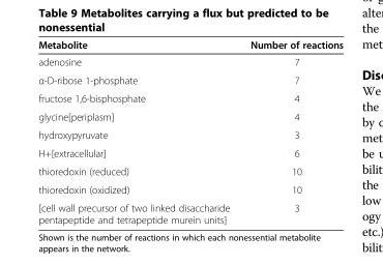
<table><thead><tr><td>Metabolite</td><td>Number of reactions</td></tr></thead><tbody><tr><td>adenosine</td><td>7</td></tr><tr><td>α-D-ribose 1-phosphate</td><td>7</td></tr><tr><td>fructose 1,6-bisphosphate</td><td>4</td></tr><tr><td>glycine[periplasm]</td><td>4</td></tr><tr><td>hydroxypyruvate</td><td>3</td></tr><tr><td>H+[extracellular]</td><td>6</td></tr><tr><td>thioredoxin (reduced)</td><td>10</td></tr><tr><td>thioredoxin (oxidized)</td><td>10</td></tr><tr><td>[cell wall precursor of two linked disaccharide pentapeptide and tetrapeptide murein units]</td><td>3</td></tr></tbody></table>